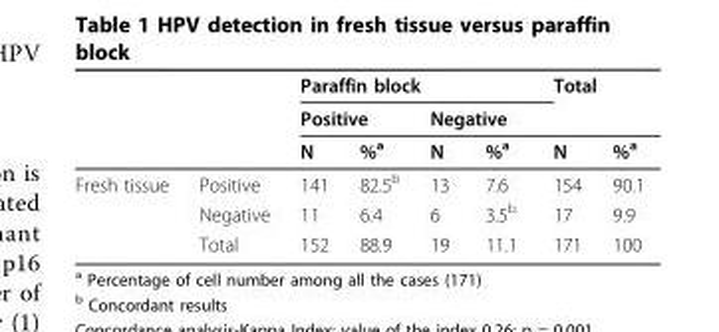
<table><thead><tr><td rowspan="3"></td><td rowspan="3"></td><td colspan="4">Paraffin block</td><td colspan="2">Total</td></tr><tr><td colspan="2">Positive</td><td colspan="2">Negative</td><td rowspan="2">N</td><td rowspan="2">%<sup>a</sup></td></tr><tr><td>N</td><td>%<sup>a</sup></td><td>N</td><td>%<sup>a</sup></td></tr></thead><tbody><tr><td rowspan="3">Fresh tissue</td><td>Positive</td><td>141</td><td>82.5<sup>b</sup></td><td>13</td><td>7.6</td><td>154</td><td>90.1</td></tr><tr><td>Negative</td><td>11</td><td>6.4</td><td>6</td><td>3.5<sup>b</sup></td><td>17</td><td>9.9</td></tr><tr><td>Total</td><td>152</td><td>88.9</td><td>19</td><td>11.1</td><td>171</td><td>100</td></tr></tbody></table>